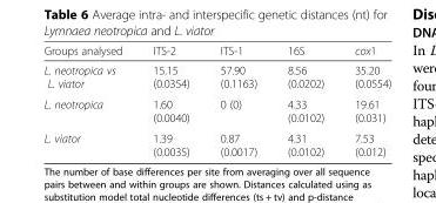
<table><thead><tr><td>Groups analysed</td><td>ITS-2</td><td>ITS-1</td><td>16S</td><td>cox1</td></tr></thead><tbody><tr><td>L. neotropica vs L. viator</td><td>15.15 (0.0354)</td><td>57.90 (0.1163)</td><td>8.56 (0.0202)</td><td>35.20 (0.0554)</td></tr><tr><td>L. neotropica</td><td>1.60 (0.0040)</td><td>0 (0)</td><td>4.33 (0.0102)</td><td>19.61 (0.031)</td></tr><tr><td>L. viator</td><td>1.39 (0.0035)</td><td>0.87 (0.0017)</td><td>4.31 (0.0102)</td><td>7.53 (0.012)</td></tr></tbody></table>